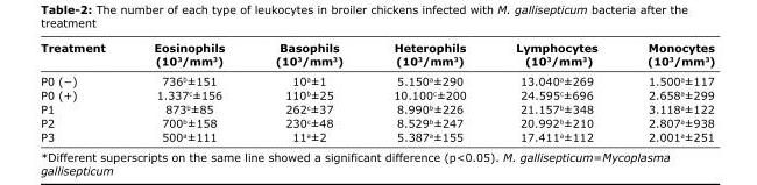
<table><thead><tr><td>Treatment</td><td>Eosinophils (10<sup>3</sup>/mm3)</td><td>Basophils (10<sup>3</sup>/mm3)</td><td>Heterophils (10<sup>3</sup>/mm3)</td><td>Lymphocytes (10<sup>3</sup>/mm3)</td><td>Monocytes (10<sup>3</sup>/mm3)</td></tr></thead><tbody><tr><td>P0 (−)</td><td>736<sup>b</sup>±151</td><td>10<sup>a</sup>±1</td><td>5.150<sup>a</sup>±290</td><td>13.040<sup>a</sup>±269</td><td>1.500<sup>a</sup>±117</td></tr><tr><td>P0 (+)</td><td>1.337<sup>c</sup>±156</td><td>110<sup>b</sup>±25</td><td>10.100<sup>c</sup>±200</td><td>24.595<sup>c</sup>±696</td><td>2.658<sup>a</sup>±299</td></tr><tr><td>P1</td><td>873<sup>b</sup>±85</td><td>262<sup>c</sup>±37</td><td>8.990<sup>b</sup>±226</td><td>21.157<sup>b</sup>±348</td><td>3.118<sup>a</sup>±122</td></tr><tr><td>P2</td><td>700<sup>b</sup>±158</td><td>230<sup>c</sup>±48</td><td>8.529<sup>b</sup>±247</td><td>20.992<sup>b</sup>±210</td><td>2.807<sup>a</sup>±938</td></tr><tr><td>P3</td><td>500<sup>a</sup>±111</td><td>11<sup>a</sup>±2</td><td>5.387<sup>a</sup>±155</td><td>17.411<sup>a</sup>±112</td><td>2.001<sup>a</sup>±251</td></tr></tbody></table>